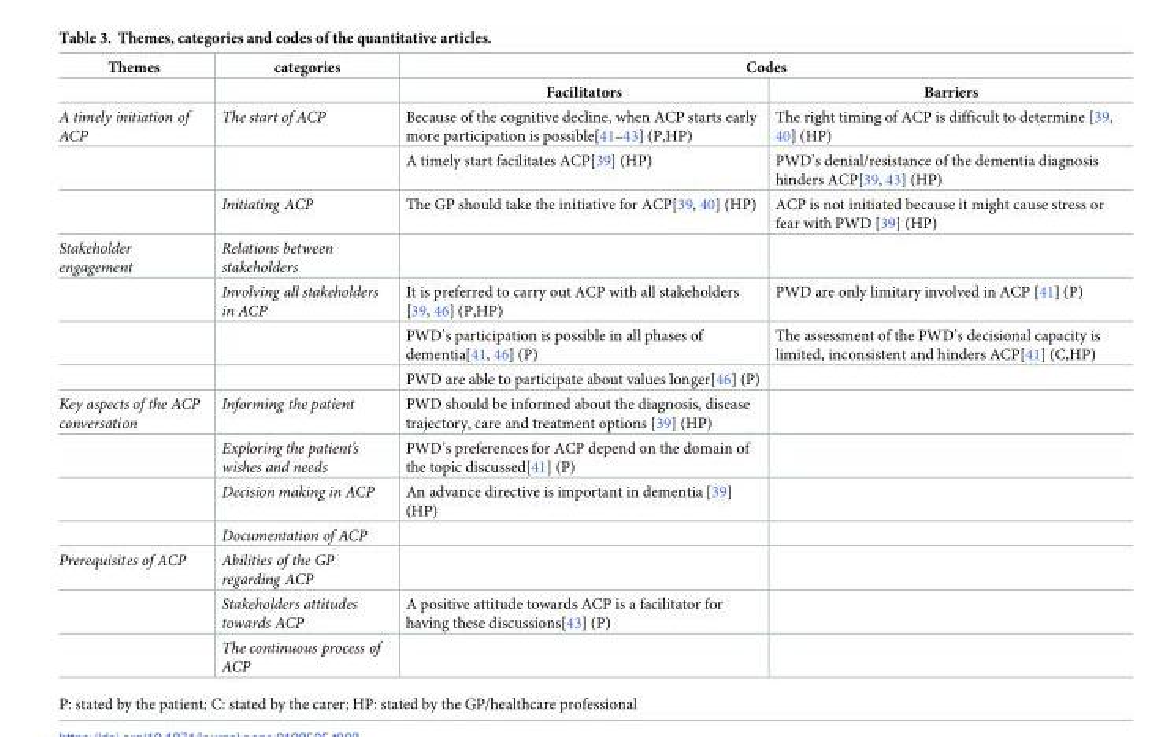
<table><thead><tr><td rowspan="2">Themes</td><td rowspan="2">categories</td><td colspan="2">Codes</td></tr><tr><td>Facilitators</td><td>Barriers</td></tr></thead><tbody><tr><td rowspan="3">A timely initiation of ACP</td><td>The start of ACP</td><td>Because of the cognitive decline, when ACP starts early more participation is possible[41–43] (P,HP)</td><td>The right timing of ACP is difficult to determine [39, 40] (HP)</td></tr><tr><td></td><td>A timely start facilitates ACP[39] (HP)</td><td>PWD’s denial/resistance of the dementia diagnosis hinders ACP[39, 43] (HP)</td></tr><tr><td>Initiating ACP</td><td>The GP should take the initiative for ACP[39, 40] (HP)</td><td>ACP is not initiated because it might cause stress or fear with PWD [39] (HP)</td></tr><tr><td rowspan="4">Stakeholder engagement</td><td>Relations between stakeholders</td><td></td><td></td></tr><tr><td>Involving all stakeholders in ACP</td><td>It is preferred to carry out ACP with all stakeholders [39, 46] (P,HP)</td><td>PWD are only limitary involved in ACP [41] (P)</td></tr><tr><td></td><td>PWD’s participation is possible in all phases of dementia[41, 46] (P)</td><td>The assessment of the PWD’s decisional capacity is limited, inconsistent and hinders ACP[41] (C,HP)</td></tr><tr><td></td><td>PWD are able to participate about values longer[46] (P)</td><td></td></tr><tr><td rowspan="4">Key aspects of the ACP conversation</td><td>Informing the patient</td><td>PWD should be informed about the diagnosis, disease trajectory, care and treatment options [39] (HP)</td><td></td></tr><tr><td>Exploring the patient’s wishes and needs</td><td>PWD’s preferences for ACP depend on the domain of the topic discussed[41] (P)</td><td></td></tr><tr><td>Decision making in ACP</td><td>An advance directive is important in dementia [39] (HP)</td><td></td></tr><tr><td>Documentation of ACP</td><td></td><td></td></tr><tr><td rowspan="3">Prerequisites of ACP</td><td>Abilities of the GP regarding ACP</td><td></td><td></td></tr><tr><td>Stakeholders attitudes towards ACP</td><td>A positive attitude towards ACP is a facilitator for having these discussions[43] (P)</td><td></td></tr><tr><td>The continuous process of ACP</td><td></td><td></td></tr></tbody></table>